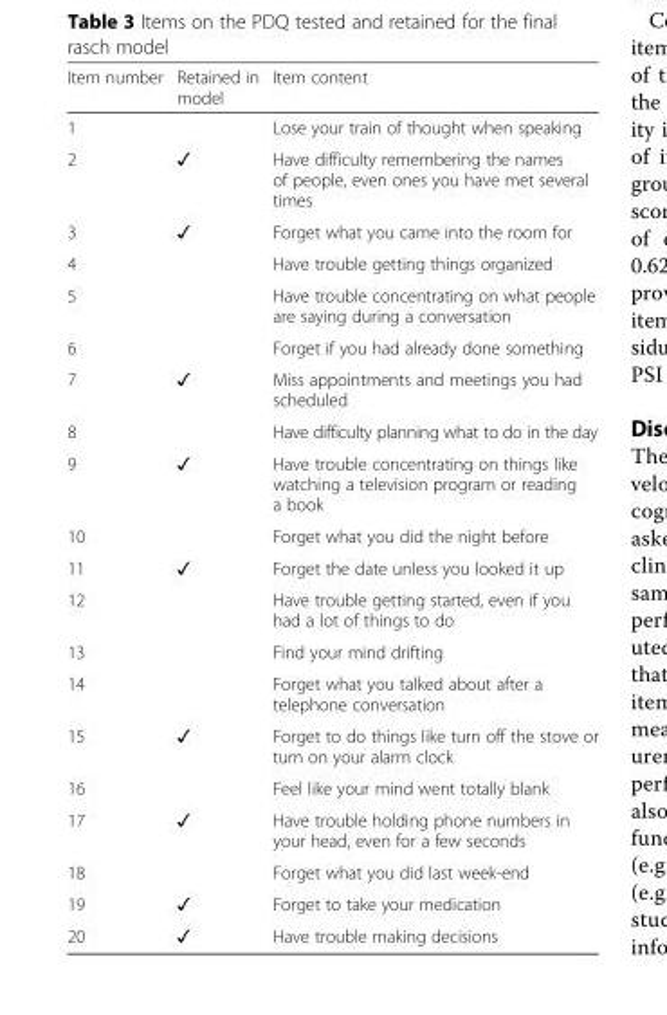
<table><thead><tr><td>Item number</td><td>Retained in model</td><td>Item content</td></tr></thead><tbody><tr><td>1</td><td></td><td>Lose your train of thought when speaking</td></tr><tr><td>2</td><td>✓</td><td>Have difficulty remembering the names of people, even ones you have met several times</td></tr><tr><td>3</td><td>✓</td><td>Forget what you came into the room for</td></tr><tr><td>4</td><td></td><td>Have trouble getting things organized</td></tr><tr><td>5</td><td></td><td>Have trouble concentrating on what people are saying during a conversation</td></tr><tr><td>6</td><td></td><td>Forget if you had already done something</td></tr><tr><td>7</td><td>✓</td><td>Miss appointments and meetings you had scheduled</td></tr><tr><td>8</td><td></td><td>Have difficulty planning what to do in the day</td></tr><tr><td>9</td><td>✓</td><td>Have trouble concentrating on things like watching a television program or reading a book</td></tr><tr><td>10</td><td></td><td>Forget what you did the night before</td></tr><tr><td>11</td><td>✓</td><td>Forget the date unless you looked it up</td></tr><tr><td>12</td><td></td><td>Have trouble getting started, even if you had a lot of things to do</td></tr><tr><td>13</td><td></td><td>Find your mind drifting</td></tr><tr><td>14</td><td></td><td>Forget what you talked about after a telephone conversation</td></tr><tr><td>15</td><td>✓</td><td>Forget to do things like turn off the stove or turn on your alarm clock</td></tr><tr><td>16</td><td></td><td>Feel like your mind went totally blank</td></tr><tr><td>17</td><td>✓</td><td>Have trouble holding phone numbers in your head, even for a few seconds</td></tr><tr><td>18</td><td></td><td>Forget what you did last week-end</td></tr><tr><td>19</td><td>✓</td><td>Forget to take your medication</td></tr><tr><td>20</td><td>✓</td><td>Have trouble making decisions</td></tr></tbody></table>